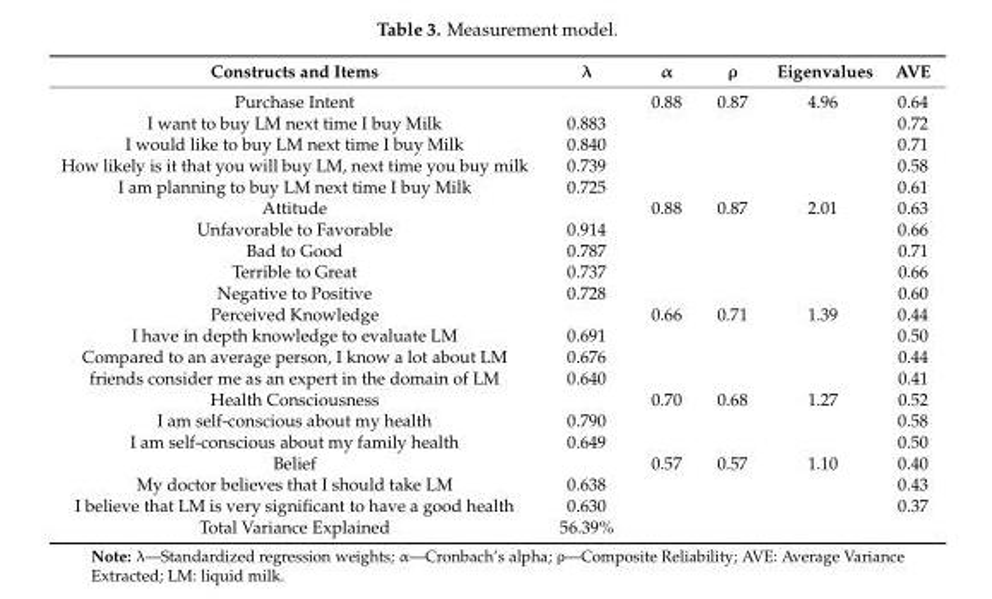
<table><thead><tr><td>Constructs and Items</td><td>λ</td><td>α</td><td>ρ</td><td>Eigenvalues</td><td>AVE</td></tr></thead><tbody><tr><td>Purchase Intent</td><td></td><td>0.88</td><td>0.87</td><td>4.96</td><td>0.64</td></tr><tr><td>I want to buy LM next time I buy Milk</td><td>0.883</td><td></td><td></td><td></td><td>0.72</td></tr><tr><td>I would like to buy LM next time I buy Milk</td><td>0.840</td><td></td><td></td><td></td><td>0.71</td></tr><tr><td>How likely is it that you will buy LM, next time you buy milk</td><td>0.739</td><td></td><td></td><td></td><td>0.58</td></tr><tr><td>I am planning to buy LM next time I buy Milk</td><td>0.725</td><td></td><td></td><td></td><td>0.61</td></tr><tr><td>Attitude</td><td></td><td>0.88</td><td>0.87</td><td>2.01</td><td>0.63</td></tr><tr><td>Unfavorable to Favorable</td><td>0.914</td><td></td><td></td><td></td><td>0.66</td></tr><tr><td>Bad to Good</td><td>0.787</td><td></td><td></td><td></td><td>0.71</td></tr><tr><td>Terrible to Great</td><td>0.737</td><td></td><td></td><td></td><td>0.66</td></tr><tr><td>Negative to Positive</td><td>0.728</td><td></td><td></td><td></td><td>0.60</td></tr><tr><td>Perceived Knowledge</td><td></td><td>0.66</td><td>0.71</td><td>1.39</td><td>0.44</td></tr><tr><td>I have in depth knowledge to evaluate LM</td><td>0.691</td><td></td><td></td><td></td><td>0.50</td></tr><tr><td>Compared to an average person, I know a lot about LM</td><td>0.676</td><td></td><td></td><td></td><td>0.44</td></tr><tr><td>friends consider me as an expert in the domain of LM</td><td>0.640</td><td></td><td></td><td></td><td>0.41</td></tr><tr><td>Health Consciousness</td><td></td><td>0.70</td><td>0.68</td><td>1.27</td><td>0.52</td></tr><tr><td>I am self-conscious about my health</td><td>0.790</td><td></td><td></td><td></td><td>0.58</td></tr><tr><td>I am self-conscious about my family health</td><td>0.649</td><td></td><td></td><td></td><td>0.50</td></tr><tr><td>Belief</td><td></td><td>0.57</td><td>0.57</td><td>1.10</td><td>0.40</td></tr><tr><td>My doctor believes that I should take LM</td><td>0.638</td><td></td><td></td><td></td><td>0.43</td></tr><tr><td>I believe that LM is very significant to have a good health</td><td>0.630</td><td></td><td></td><td></td><td>0.37</td></tr><tr><td>Total Variance Explained</td><td>56.39%</td><td></td><td></td><td></td><td></td></tr></tbody></table>